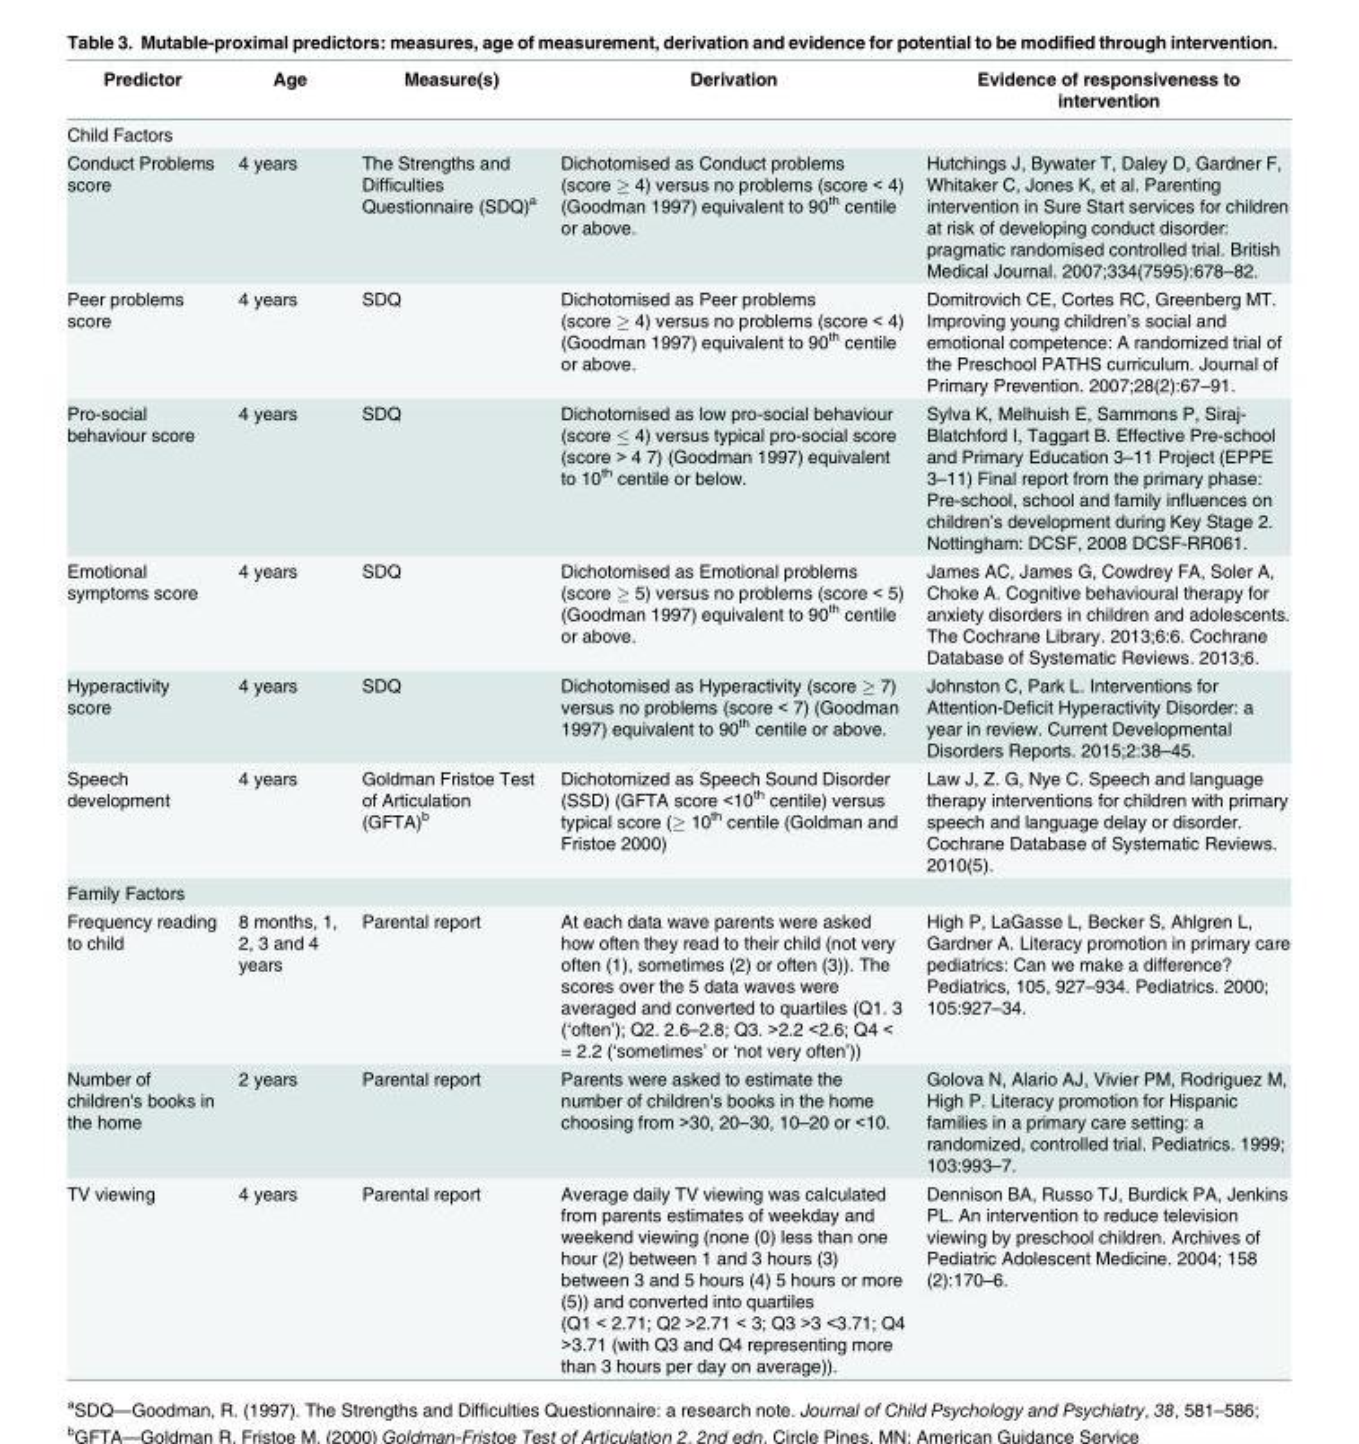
<table><thead><tr><td>Predictor</td><td>Age</td><td>Measure(s)</td><td>Derivation</td><td>Evidence of responsiveness to intervention</td></tr></thead><tbody><tr><td colspan="5">Child Factors</td></tr><tr><td>Conduct Problems score</td><td>4 years</td><td>The Strengths and Difficulties Questionnaire (SDQ)<sup>a</sup></td><td>Dichotomised as Conduct problems (score ≥ 4) versus no problems (score &lt; 4) (Goodman 1997) equivalent to 90<sup>th</sup> centile or above.</td><td>Hutchings J, Bywater T, Daley D, Gardner F, Whitaker C, Jones K, et al. Parenting intervention in Sure Start services for children at risk of developing conduct disorder: pragmatic randomised controlled trial. British Medical Journal. 2007;334(7595):678–82.</td></tr><tr><td>Peer problems score</td><td>4 years</td><td>SDQ</td><td>Dichotomised as Peer problems (score ≥ 4) versus no problems (score &lt; 4) (Goodman 1997) equivalent to 90<sup>th</sup> centile or above.</td><td>Domitrovich CE, Cortes RC, Greenberg MT. Improving young children’s social and emotional competence: A randomized trial of the Preschool PATHS curriculum. Journal of Primary Prevention. 2007;28(2):67–91.</td></tr><tr><td>Pro-social behaviour score</td><td>4 years</td><td>SDQ</td><td>Dichotomised as low pro-social behaviour (score ≤ 4) versus typical pro-social score (score &gt; 4 7) (Goodman 1997) equivalent to 10<sup>th</sup> centile or below.</td><td>Sylva K, Melhuish E, Sammons P, Siraj- Blatchford I, Taggart B. Effective Pre-school and Primary Education 3–11 Project (EPPE 3–11) Final report from the primary phase: Pre-school, school and family influences on children’s development during Key Stage 2. Nottingham: DCSF, 2008 DCSF-RR061.</td></tr><tr><td>Emotional symptoms score</td><td>4 years</td><td>SDQ</td><td>Dichotomised as Emotional problems (score ≥ 5) versus no problems (score &lt; 5) (Goodman 1997) equivalent to 90<sup>th</sup> centile or above.</td><td>James AC, James G, Cowdrey FA, Soler A, Choke A. Cognitive behavioural therapy for anxiety disorders in children and adolescents. The Cochrane Library. 2013;6:6. Cochrane Database of Systematic Reviews. 2013;6.</td></tr><tr><td>Hyperactivity score</td><td>4 years</td><td>SDQ</td><td>Dichotomised as Hyperactivity (score ≥ 7) versus no problems (score &lt; 7) (Goodman 1997) equivalent to 90<sup>th</sup> centile or above.</td><td>Johnston C, Park L. Interventions for Attention-Deficit Hyperactivity Disorder: a year in review. Current Developmental Disorders Reports. 2015;2:38–45.</td></tr><tr><td>Speech development</td><td>4 years</td><td>Goldman Fristoe Test of Articulation (GFTA)<sup>b</sup></td><td>Dichotomized as Speech Sound Disorder (SSD) (GFTA score &lt;10<sup>th</sup> centile) versus typical score (≥ 10<sup>th</sup> centile (Goldman and Fristoe 2000)</td><td>Law J, Z. G, Nye C. Speech and language therapy interventions for children with primary speech and language delay or disorder. Cochrane Database of Systematic Reviews. 2010(5).</td></tr><tr><td colspan="5">Family Factors</td></tr><tr><td>Frequency reading to child</td><td>8 months, 1, 2, 3 and 4 years</td><td>Parental report</td><td>At each data wave parents were asked how often they read to their child (not very often (1), sometimes (2) or often (3)). The scores over the 5 data waves were averaged and converted to quartiles (Q1. 3 (‘often’); Q2. 2.6–2.8; Q3. &gt;2.2 &lt;2.6; Q4 &lt; = 2.2 (‘sometimes’ or ‘not very often’))</td><td>High P, LaGasse L, Becker S, Ahlgren L, Gardner A. Literacy promotion in primary care pediatrics: Can we make a difference? Pediatrics, 105, 927–934. Pediatrics. 2000; 105:927–34.</td></tr><tr><td>Number of children&#x27;s books in the home</td><td>2 years</td><td>Parental report</td><td>Parents were asked to estimate the number of children&#x27;s books in the home choosing from &gt;30, 20–30, 10–20 or &lt;10.</td><td>Golova N, Alario AJ, Vivier PM, Rodriguez M, High P. Literacy promotion for Hispanic families in a primary care setting: a randomized, controlled trial. Pediatrics. 1999; 103:993–7.</td></tr><tr><td>TV viewing</td><td>4 years</td><td>Parental report</td><td>Average daily TV viewing was calculated from parents estimates of weekday and weekend viewing (none (0) less than one hour (2) between 1 and 3 hours (3) between 3 and 5 hours (4) 5 hours or more (5)) and converted into quartiles (Q1 &lt; 2.71; Q2 &gt;2.71 &lt; 3; Q3 &gt;3 &lt;3.71; Q4 &gt;3.71 (with Q3 and Q4 representing more than 3 hours per day on average)).</td><td>Dennison BA, Russo TJ, Burdick PA, Jenkins PL. An intervention to reduce television viewing by preschool children. Archives of Pediatric Adolescent Medicine. 2004; 158 (2):170–6.</td></tr></tbody></table>